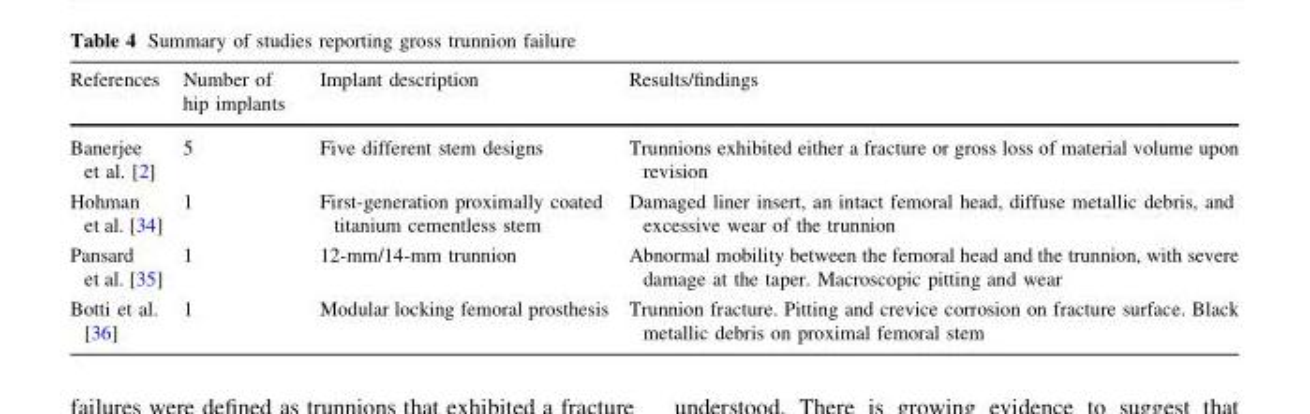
<table><thead><tr><td>References</td><td>Number of hip implants</td><td>Implant description</td><td>Results/findings</td></tr></thead><tbody><tr><td>Banerjee et al. [2]</td><td>5</td><td>Five different stem designs</td><td>Trunnions exhibited either a fracture or gross loss of material volume upon revision</td></tr><tr><td>Hohman et al. [34]</td><td>1</td><td>First-generation proximally coated titanium cementless stem</td><td>Damaged liner insert, an intact femoral head, diffuse metallic debris, and excessive wear of the trunnion</td></tr><tr><td>Pansard et al. [35]</td><td>1</td><td>12-mm/14-mm trunnion</td><td>Abnormal mobility between the femoral head and the trunnion, with severe damage at the taper. Macroscopic pitting and wear</td></tr><tr><td>Botti et al. [36]</td><td>1</td><td>Modular locking femoral prosthesis</td><td>Trunnion fracture. Pitting and crevice corrosion on fracture surface. Black metallic debris on proximal femoral stem</td></tr></tbody></table>